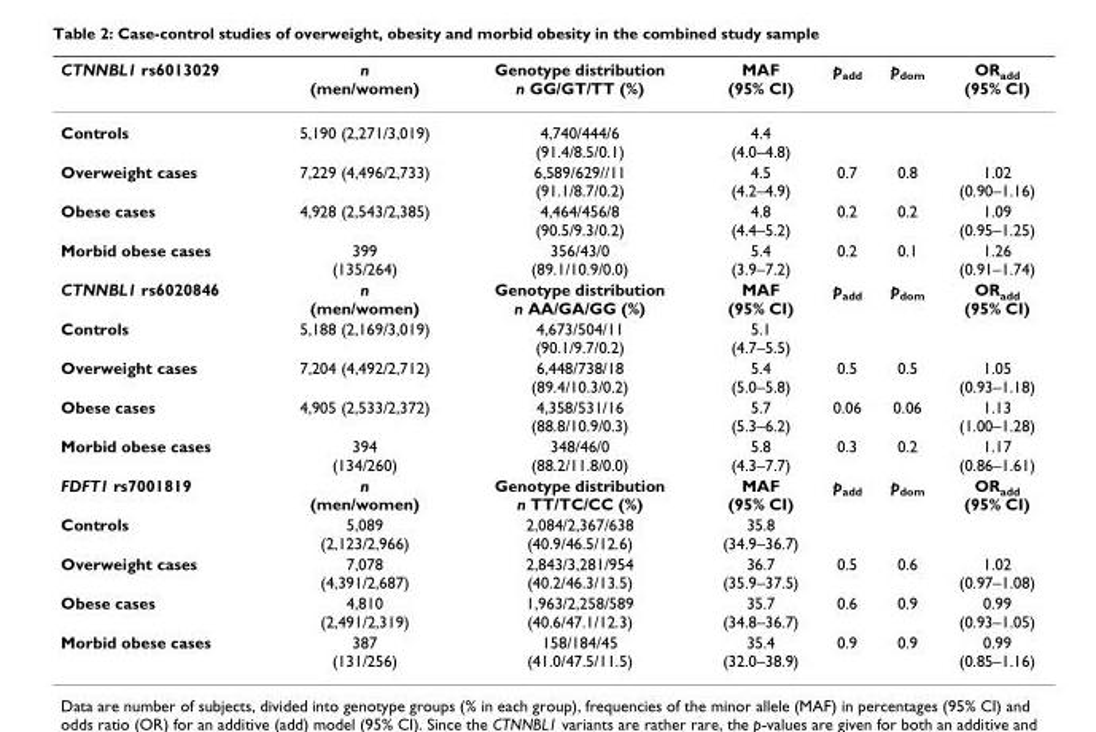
<table><thead><tr><td>CTNNBL1 rs6013029</td><td>n (men/women)</td><td>Genotype distribution n GG/GT/TT (%)</td><td>MAF (95% CI)</td><td>p<sub>add</sub></td><td>p<sub>dom</sub></td><td>OR<sub>add</sub> (95% CI)</td></tr></thead><tbody><tr><td>Controls</td><td>5,190 (2,271/3,019)</td><td>4,740/444/6 (91.4/8.5/0.1)</td><td>4.4 (4.0–4.8)</td><td></td><td></td><td></td></tr><tr><td>Overweight cases</td><td>7,229 (4,496/2,733)</td><td>6,589/629//11 (91.1/8.7/0.2)</td><td>4.5 (4.2–4.9)</td><td>0.7</td><td>0.8</td><td>1.02 (0.90–1.16)</td></tr><tr><td>Obese cases</td><td>4,928 (2,543/2,385)</td><td>4,464/456/8 (90.5/9.3/0.2)</td><td>4.8 (4.4–5.2)</td><td>0.2</td><td>0.2</td><td>1.09 (0.95–1.25)</td></tr><tr><td>Morbid obese cases</td><td>399 (135/264)</td><td>356/43/0 (89.1/10.9/0.0)</td><td>5.4 (3.9–7.2)</td><td>0.2</td><td>0.1</td><td>1.26 (0.91–1.74)</td></tr><tr><td>CTNNBL1 rs6020846</td><td>n (men/women)</td><td>Genotype distribution n AA/GA/GG (%)</td><td>MAF (95% CI)</td><td>p<sub>add</sub></td><td>p<sub>dom</sub></td><td>OR<sub>add</sub> (95% CI)</td></tr><tr><td>Controls</td><td>5,188 (2,169/3,019)</td><td>4,673/504/11 (90.1/9.7/0.2)</td><td>5.1 (4.7–5.5)</td><td></td><td></td><td></td></tr><tr><td>Overweight cases</td><td>7,204 (4,492/2,712)</td><td>6,448/738/18 (89.4/10.3/0.2)</td><td>5.4 (5.0–5.8)</td><td>0.5</td><td>0.5</td><td>1.05 (0.93–1.18)</td></tr><tr><td>Obese cases</td><td>4,905 (2,533/2,372)</td><td>4,358/531/16 (88.8/10.9/0.3)</td><td>5.7 (5.3–6.2)</td><td>0.06</td><td>0.06</td><td>1.13 (1.00–1.28)</td></tr><tr><td>Morbid obese cases</td><td>394 (134/260)</td><td>348/46/0 (88.2/11.8/0.0)</td><td>5.8 (4.3–7.7)</td><td>0.3</td><td>0.2</td><td>1.17 (0.86–1.61)</td></tr><tr><td>FDFT1 rs7001819</td><td>n (men/women)</td><td>Genotype distribution n TT/TC/CC (%)</td><td>MAF (95% CI)</td><td>p<sub>add</sub></td><td>p<sub>dom</sub></td><td>OR<sub>add</sub> (95% CI)</td></tr><tr><td>Controls</td><td>5,089 (2,123/2,966)</td><td>2,084/2,367/638 (40.9/46.5/12.6)</td><td>35.8 (34.9–36.7)</td><td></td><td></td><td></td></tr><tr><td>Overweight cases</td><td>7,078 (4,391/2,687)</td><td>2,843/3,281/954 (40.2/46.3/13.5)</td><td>36.7 (35.9–37.5)</td><td>0.5</td><td>0.6</td><td>1.02 (0.97–1.08)</td></tr><tr><td>Obese cases</td><td>4,810 (2,491/2,319)</td><td>1,963/2,258/589 (40.6/47.1/12.3)</td><td>35.7 (34.8–36.7)</td><td>0.6</td><td>0.9</td><td>0.99 (0.93–1.05)</td></tr><tr><td>Morbid obese cases</td><td>387 (131/256)</td><td>158/184/45 (41.0/47.5/11.5)</td><td>35.4 (32.0–38.9)</td><td>0.9</td><td>0.9</td><td>0.99 (0.85–1.16)</td></tr></tbody></table>